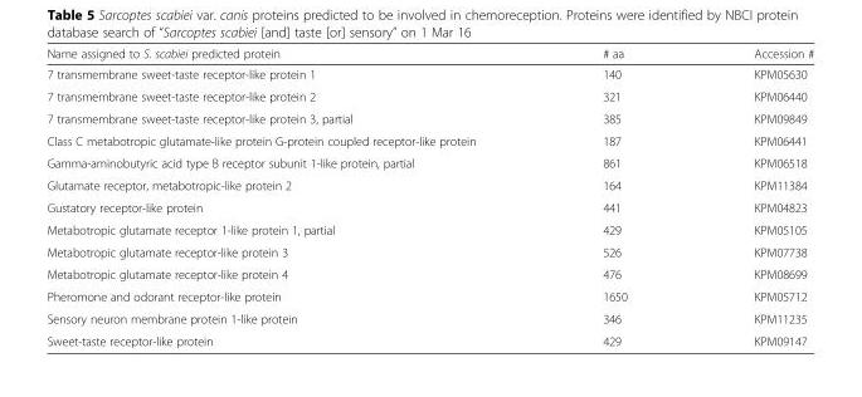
<table><thead><tr><td>Name assigned to S. scabiei predicted protein</td><td># aa</td><td>Accession #</td></tr></thead><tbody><tr><td>7 transmembrane sweet-taste receptor-like protein 1</td><td>140</td><td>KPM05630</td></tr><tr><td>7 transmembrane sweet-taste receptor-like protein 2</td><td>321</td><td>KPM06440</td></tr><tr><td>7 transmembrane sweet-taste receptor-like protein 3, partial</td><td>385</td><td>KPM09849</td></tr><tr><td>Class C metabotropic glutamate-like protein G-protein coupled receptor-like protein</td><td>187</td><td>KPM06441</td></tr><tr><td>Gamma-aminobutyric acid type B receptor subunit 1-like protein, partial</td><td>861</td><td>KPM06518</td></tr><tr><td>Glutamate receptor, metabotropic-like protein 2</td><td>164</td><td>KPM11384</td></tr><tr><td>Gustatory receptor-like protein</td><td>441</td><td>KPM04823</td></tr><tr><td>Metabotropic glutamate receptor 1-like protein 1, partial</td><td>429</td><td>KPM05105</td></tr><tr><td>Metabotropic glutamate receptor-like protein 3</td><td>526</td><td>KPM07738</td></tr><tr><td>Metabotropic glutamate receptor-like protein 4</td><td>476</td><td>KPM08699</td></tr><tr><td>Pheromone and odorant receptor-like protein</td><td>1650</td><td>KPM05712</td></tr><tr><td>Sensory neuron membrane protein 1-like protein</td><td>346</td><td>KPM11235</td></tr><tr><td>Sweet-taste receptor-like protein</td><td>429</td><td>KPM09147</td></tr></tbody></table>